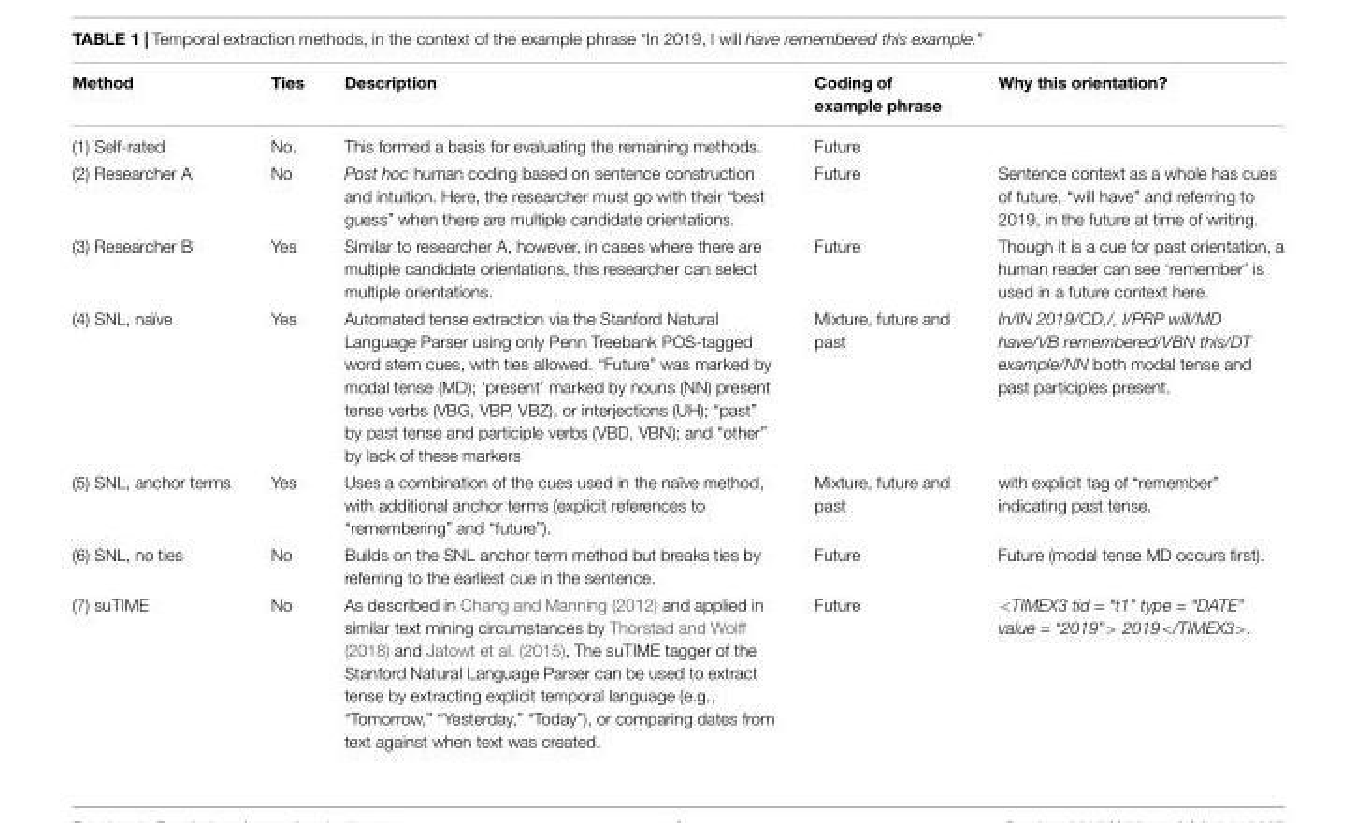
<table><thead><tr><td>Method</td><td>Ties</td><td>Description</td><td>Coding of example phrase</td><td>Why this orientation?</td></tr></thead><tbody><tr><td>(1) Self-rated</td><td>No.</td><td>This formed a basis for evaluating the remaining methods.</td><td>Future</td><td></td></tr><tr><td>(2) Researcher A</td><td>No</td><td>Post hoc human coding based on sentence construction and intuition. Here, the researcher must go with their “best guess” when there are multiple candidate orientations.</td><td>Future</td><td>Sentence context as a whole has cues of future, “will have” and referring to 2019, in the future at time of writing.</td></tr><tr><td>(3) Researcher B</td><td>Yes</td><td>Similar to researcher A, however, in cases where there are multiple candidate orientations, this researcher can select multiple orientations.</td><td>Future</td><td>Though it is a cue for past orientation, a human reader can see ‘remember’ is used in a future context here.</td></tr><tr><td>(4) SNL, naïve</td><td>Yes</td><td>Automated tense extraction via the Stanford Natural Language Parser using only Penn Treebank POS-tagged word stem cues, with ties allowed. “Future” was marked by modal tense (MD); ‘present’ marked by nouns (NN) present tense verbs (VBG, VBP, VBZ), or interjections (UH); “past” by past tense and participle verbs (VBD, VBN); and “other” by lack of these markers</td><td>Mixture, future and past</td><td>In/IN 2019/CD,/, I/PRP will/MD have/VB remembered/VBN this/DT example/NN both modal tense and past participles present.</td></tr><tr><td>(5) SNL, anchor terms</td><td>Yes</td><td>Uses a combination of the cues used in the naïve method, with additional anchor terms (explicit references to “remembering” and “future”).</td><td>Mixture, future and past</td><td>with explicit tag of “remember” indicating past tense.</td></tr><tr><td>(6) SNL, no ties</td><td>No</td><td>Builds on the SNL anchor term method but breaks ties by referring to the earliest cue in the sentence.</td><td>Future</td><td>Future (modal tense MD occurs first).</td></tr><tr><td>(7) suTIME</td><td>No</td><td>As described in Chang and Manning (2012) and applied in similar text mining circumstances by Thorstad and Wolff (2018) and Jatowt et al. (2015), The suTIME tagger of the Stanford Natural Language Parser can be used to extract tense by extracting explicit temporal language (e.g., “Tomorrow,” “Yesterday,” “Today”), or comparing dates from text against when text was created.</td><td>Future</td><td>&lt;TIMEX3 tid = “t1” type = “DATE” value = “2019”&gt; 2019&lt;/TIMEX3&gt;.</td></tr></tbody></table>